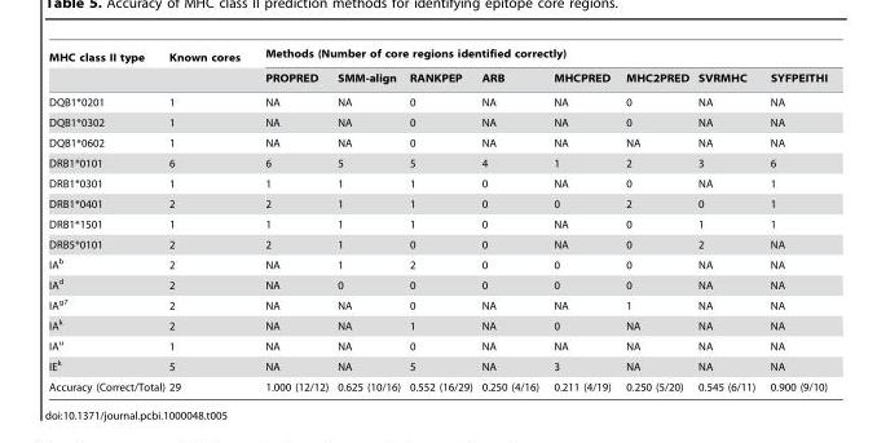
<table><thead><tr><td rowspan="2">MHC class II type</td><td rowspan="2">Known cores</td><td colspan="8">Methods (Number of core regions identified correctly)</td></tr><tr><td>PROPRED</td><td>SMM-align</td><td>RANKPEP</td><td>ARB</td><td>MHCPRED</td><td>MHC2PRED</td><td>SVRMHC</td><td>SYFPEITHI</td></tr></thead><tbody><tr><td>DQB1*0201</td><td>1</td><td>NA</td><td>NA</td><td>0</td><td>NA</td><td>NA</td><td>0</td><td>NA</td><td>NA</td></tr><tr><td>DQB1*0302</td><td>1</td><td>NA</td><td>NA</td><td>0</td><td>NA</td><td>NA</td><td>0</td><td>NA</td><td>NA</td></tr><tr><td>DQB1*0602</td><td>1</td><td>NA</td><td>NA</td><td>0</td><td>NA</td><td>NA</td><td>NA</td><td>NA</td><td>NA</td></tr><tr><td>DRB1*0101</td><td>6</td><td>6</td><td>5</td><td>5</td><td>4</td><td>1</td><td>2</td><td>3</td><td>6</td></tr><tr><td>DRB1*0301</td><td>1</td><td>1</td><td>1</td><td>1</td><td>0</td><td>NA</td><td>0</td><td>NA</td><td>1</td></tr><tr><td>DRB1*0401</td><td>2</td><td>2</td><td>1</td><td>1</td><td>0</td><td>0</td><td>2</td><td>0</td><td>1</td></tr><tr><td>DRB1*1501</td><td>1</td><td>1</td><td>1</td><td>1</td><td>0</td><td>NA</td><td>0</td><td>1</td><td>1</td></tr><tr><td>DRB5*0101</td><td>2</td><td>2</td><td>1</td><td>0</td><td>0</td><td>NA</td><td>0</td><td>2</td><td>NA</td></tr><tr><td>IA<sup>b</sup></td><td>2</td><td>NA</td><td>1</td><td>2</td><td>0</td><td>0</td><td>0</td><td>NA</td><td>NA</td></tr><tr><td>IA<sup>d</sup></td><td>2</td><td>NA</td><td>0</td><td>0</td><td>0</td><td>0</td><td>0</td><td>NA</td><td>NA</td></tr><tr><td>IA<sup>g7</sup></td><td>2</td><td>NA</td><td>NA</td><td>0</td><td>NA</td><td>NA</td><td>1</td><td>NA</td><td>NA</td></tr><tr><td>IA<sup>k</sup></td><td>2</td><td>NA</td><td>NA</td><td>1</td><td>NA</td><td>0</td><td>NA</td><td>NA</td><td>NA</td></tr><tr><td>IA<sup>u</sup></td><td>1</td><td>NA</td><td>NA</td><td>0</td><td>NA</td><td>NA</td><td>NA</td><td>NA</td><td>NA</td></tr><tr><td>IE<sup>k</sup></td><td>5</td><td>NA</td><td>NA</td><td>5</td><td>NA</td><td>3</td><td>NA</td><td>NA</td><td>NA</td></tr><tr><td>Accuracy (Correct/Total)</td><td>29</td><td>1.000 (12/12)</td><td>0.625 (10/16)</td><td>0.552 (16/29)</td><td>0.250 (4/16)</td><td>0.211 (4/19)</td><td>0.250 (5/20)</td><td>0.545 (6/11)</td><td>0.900 (9/10)</td></tr></tbody></table>